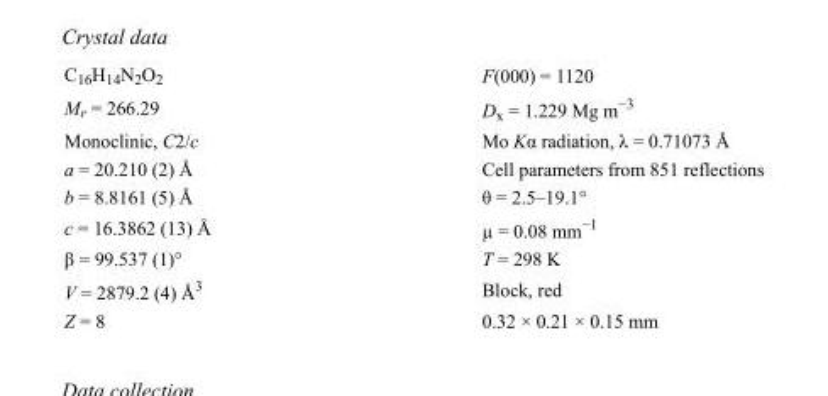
<table><tbody><tr><td>C<sub>16</sub>H<sub>14</sub>N<sub>2</sub>O<sub>2</sub></td><td>F(000) = 1120</td></tr><tr><td>M<sub>r</sub> = 266.29</td><td>D<sub>x</sub> = 1.229 Mg m<sup>−3</sup></td></tr><tr><td>Monoclinic, C2/c</td><td>Mo Kα radiation, λ = 0.71073 Å</td></tr><tr><td>a = 20.210 (2) Å</td><td>Cell parameters from 851 reflections</td></tr><tr><td>b = 8.8161 (5) Å</td><td>θ = 2.5–19.1°</td></tr><tr><td>c = 16.3862 (13) Å</td><td>µ = 0.08 mm<sup>−1</sup></td></tr><tr><td>β = 99.537 (1)°</td><td>T = 298 K</td></tr><tr><td>V = 2879.2 (4) Å<sup>3</sup></td><td>Block, red</td></tr><tr><td>Z = 8</td><td>0.32 × 0.21 × 0.15 mm</td></tr></tbody></table>